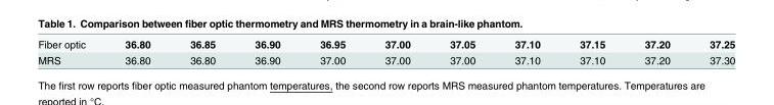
<table><tbody><tr><td>Fiber optic</td><td>36.80</td><td>36.85</td><td>36.90</td><td>36.95</td><td>37.00</td><td>37.05</td><td>37.10</td><td>37.15</td><td>37.20</td><td>37.25</td></tr><tr><td>MRS</td><td>36.80</td><td>36.80</td><td>36.90</td><td>37.00</td><td>37.00</td><td>37.00</td><td>37.10</td><td>37.10</td><td>37.20</td><td>37.30</td></tr></tbody></table>